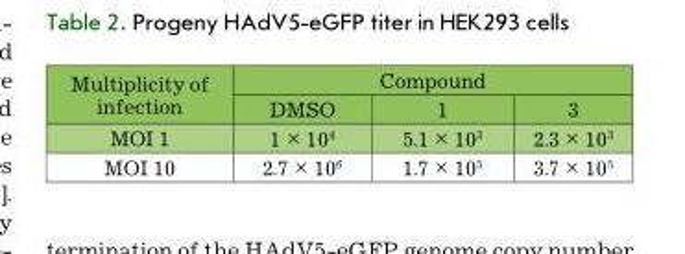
<table><thead><tr><td rowspan="2">Multiplicity of infection</td><td colspan="3">Compound</td></tr><tr><td>DMSO</td><td>1</td><td>3</td></tr></thead><tbody><tr><td>MOI 1</td><td>1 × 10<sup>4</sup></td><td>5.1 × 10<sup>3</sup></td><td>2.3 × 10<sup>3</sup></td></tr><tr><td>MOI 10</td><td>2.7 × 10<sup>6</sup></td><td>1.7 × 10<sup>5</sup></td><td>3.7 × 10<sup>5</sup></td></tr></tbody></table>